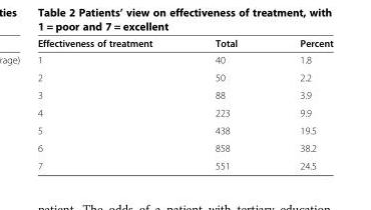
<table><thead><tr><td>Effectiveness of treatment</td><td>Total</td><td>Percent</td></tr></thead><tbody><tr><td>1</td><td>40</td><td>1.8</td></tr><tr><td>2</td><td>50</td><td>2.2</td></tr><tr><td>3</td><td>88</td><td>3.9</td></tr><tr><td>4</td><td>223</td><td>9.9</td></tr><tr><td>5</td><td>438</td><td>19.5</td></tr><tr><td>6</td><td>858</td><td>38.2</td></tr><tr><td>7</td><td>551</td><td>24.5</td></tr></tbody></table>